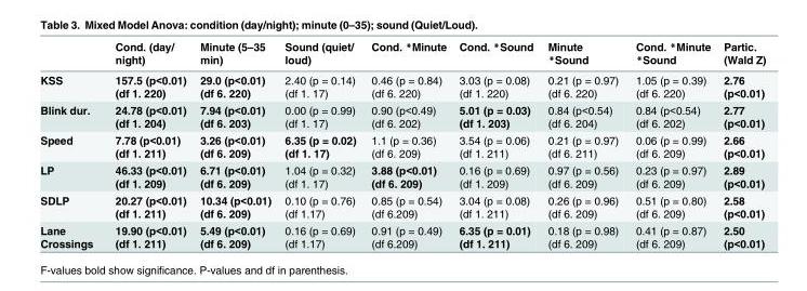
<table><thead><tr><td></td><td>Cond. (day/ night)</td><td>Minute (5–35 min)</td><td>Sound (quiet/ loud)</td><td>Cond. *Minute</td><td>Cond. *Sound</td><td>Minute *Sound</td><td>Cond. *Minute *Sound</td><td>Partic. (Wald Z)</td></tr></thead><tbody><tr><td>KSS</td><td>157.5 (p&lt;0.01) (df 1. 220)</td><td>29.0 (p&lt;0.01) (df 6. 220)</td><td>2.40 (p = 0.14) (df 1. 17)</td><td>0.46 (p = 0.84) (df 6. 220)</td><td>3.03 (p = 0.08) (df 1. 220)</td><td>0.21 (p = 0.97) (df 6. 220)</td><td>1.05 (p = 0.39) (df 6. 220)</td><td>2.76 (p&lt;0.01)</td></tr><tr><td>Blink dur.</td><td>24.78 (p&lt;0.01) (df 1. 204)</td><td>7.94 (p&lt;0.01) (df 6. 203)</td><td>0.00 (p = 0.99) (df 1. 17)</td><td>0.90 (p&lt;0.49) (df 6. 202)</td><td>5.01 (p = 0.03) (df 1. 203)</td><td>0.84 (p&lt;0.54) (df 6. 204)</td><td>0.84 (p&lt;0.54) (df 6. 202)</td><td>2.77 (p&lt;0.01)</td></tr><tr><td>Speed</td><td>7.78 (p&lt;0.01) (df 1. 211)</td><td>3.26 (p&lt;0.01) (df 6. 209)</td><td>6.35 (p = 0.02) (df 1. 17)</td><td>1.1 (p = 0.36) (df 6. 209)</td><td>3.54 (p = 0.06) (df 1. 211)</td><td>0.21 (p = 0.97) (df 6. 211)</td><td>0.06 (p = 0.99) (df 6. 209)</td><td>2.66 (p&lt;0.01)</td></tr><tr><td>LP</td><td>46.33 (p&lt;0.01) (df 1. 209)</td><td>6.71 (p&lt;0.01) (df 6. 209)</td><td>1.04 (p = 0.32) (df 1. 17)</td><td>3.88 (p&lt;0.01) (df 6. 209)</td><td>0.16 (p = 0.69) (df 1. 209)</td><td>0.97 (p = 0.56) (df 6. 209)</td><td>0.23 (p = 0.97) (df 6. 209)</td><td>2.89 (p&lt;0.01)</td></tr><tr><td>SDLP</td><td>20.27 (p&lt;0.01) (df 1. 211)</td><td>10.34 (p&lt;0.01) (df 6. 209)</td><td>0.10 (p = 0.76) (df 1.17)</td><td>0.85 (p = 0.54) (df 6.209)</td><td>3.04 (p = 0.08) (df 1. 211)</td><td>0.26 (p = 0.96) (df 6. 209)</td><td>0.51 (p = 0.80) (df 6. 209)</td><td>2.58 (p&lt;0.01)</td></tr><tr><td>Lane Crossings</td><td>19.90 (p&lt;0.01) (df 1. 211)</td><td>5.49 (p&lt;0.01) (df 6. 209)</td><td>0.16 (p = 0.69) (df 1.17)</td><td>0.91 (p = 0.49) (df 6.209)</td><td>6.35 (p = 0.01) (df 1. 211)</td><td>0.18 (p = 0.98) (df 6. 209)</td><td>0.41 (p = 0.87) (df 6. 209)</td><td>2.50 (p&lt;0.01)</td></tr></tbody></table>